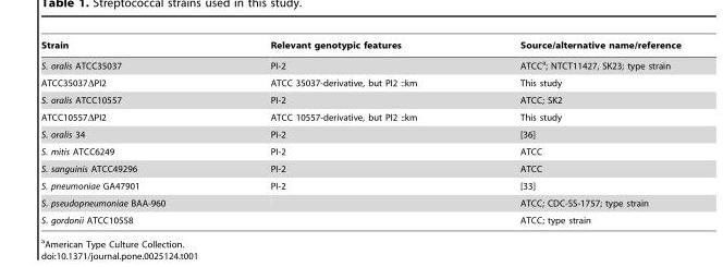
<table><thead><tr><td>Strain</td><td>Relevant genotypic features</td><td>Source/alternative name/reference</td></tr></thead><tbody><tr><td>S. oralis ATCC35037</td><td>PI-2</td><td>ATCC<sup>a</sup>; NTCT11427, SK23; type strain</td></tr><tr><td>ATCC35037ΔPI2</td><td>ATCC 35037-derivative, but PI2 ::km</td><td>This study</td></tr><tr><td>S. oralis ATCC10557</td><td>PI-2</td><td>ATCC; SK2</td></tr><tr><td>ATCC10557ΔPI2</td><td>ATCC 10557-derivative, but PI2 ::km</td><td>This study</td></tr><tr><td>S. oralis 34</td><td>PI-2</td><td>[36]</td></tr><tr><td>S. mitis ATCC6249</td><td>PI-2</td><td>ATCC</td></tr><tr><td>S. sanguinis ATCC49296</td><td>PI-2</td><td>ATCC</td></tr><tr><td>S. pneumoniae GA47901</td><td>PI-2</td><td>[33]</td></tr><tr><td>S. pseudopneumoniae BAA-960</td><td></td><td>ATCC; CDC-SS-1757; type strain</td></tr><tr><td>S. gordonii ATCC10558</td><td></td><td>ATCC; type strain</td></tr></tbody></table>